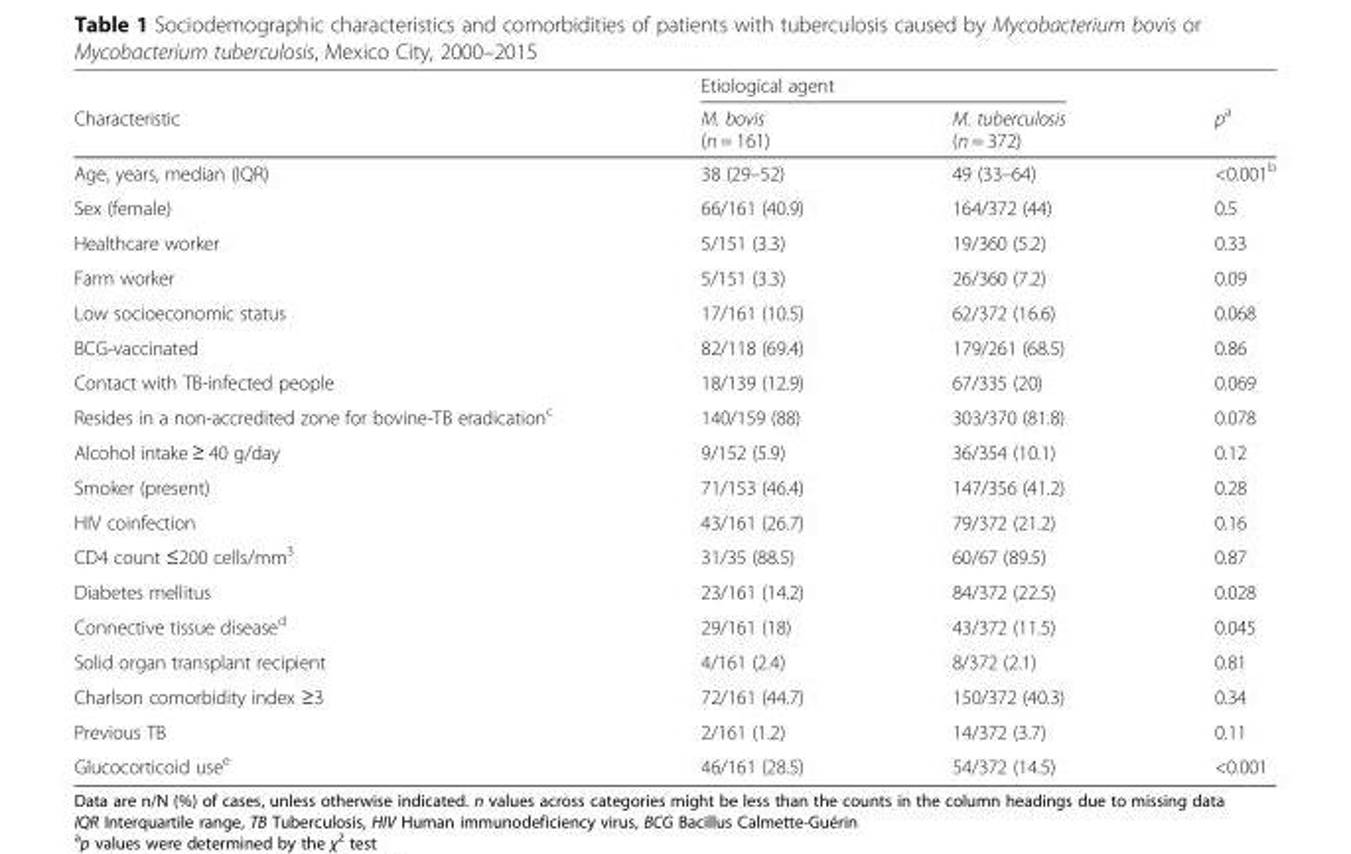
<table><thead><tr><td rowspan="2">Characteristic</td><td colspan="2">Etiological agent</td><td rowspan="2">p<sup>a</sup></td></tr><tr><td>M. bovis (n = 161)</td><td>M. tuberculosis (n = 372)</td></tr></thead><tbody><tr><td>Age, years, median (IQR)</td><td>38 (29–52)</td><td>49 (33–64)</td><td>&lt;0.001<sup>b</sup></td></tr><tr><td>Sex (female)</td><td>66/161 (40.9)</td><td>164/372 (44)</td><td>0.5</td></tr><tr><td>Healthcare worker</td><td>5/151 (3.3)</td><td>19/360 (5.2)</td><td>0.33</td></tr><tr><td>Farm worker</td><td>5/151 (3.3)</td><td>26/360 (7.2)</td><td>0.09</td></tr><tr><td>Low socioeconomic status</td><td>17/161 (10.5)</td><td>62/372 (16.6)</td><td>0.068</td></tr><tr><td>BCG-vaccinated</td><td>82/118 (69.4)</td><td>179/261 (68.5)</td><td>0.86</td></tr><tr><td>Contact with TB-infected people</td><td>18/139 (12.9)</td><td>67/335 (20)</td><td>0.069</td></tr><tr><td>Resides in a non-accredited zone for bovine-TB eradication<sup>c</sup></td><td>140/159 (88)</td><td>303/370 (81.8)</td><td>0.078</td></tr><tr><td>Alcohol intake ≥ 40 g/day</td><td>9/152 (5.9)</td><td>36/354 (10.1)</td><td>0.12</td></tr><tr><td>Smoker (present)</td><td>71/153 (46.4)</td><td>147/356 (41.2)</td><td>0.28</td></tr><tr><td>HIV coinfection</td><td>43/161 (26.7)</td><td>79/372 (21.2)</td><td>0.16</td></tr><tr><td>CD4 count ≤200 cells/mm<sup>3</sup></td><td>31/35 (88.5)</td><td>60/67 (89.5)</td><td>0.87</td></tr><tr><td>Diabetes mellitus</td><td>23/161 (14.2)</td><td>84/372 (22.5)</td><td>0.028</td></tr><tr><td>Connective tissue disease<sup>d</sup></td><td>29/161 (18)</td><td>43/372 (11.5)</td><td>0.045</td></tr><tr><td>Solid organ transplant recipient</td><td>4/161 (2.4)</td><td>8/372 (2.1)</td><td>0.81</td></tr><tr><td>Charlson comorbidity index ≥3</td><td>72/161 (44.7)</td><td>150/372 (40.3)</td><td>0.34</td></tr><tr><td>Previous TB</td><td>2/161 (1.2)</td><td>14/372 (3.7)</td><td>0.11</td></tr><tr><td>Glucocorticoid use<sup>e</sup></td><td>46/161 (28.5)</td><td>54/372 (14.5)</td><td>&lt;0.001</td></tr></tbody></table>